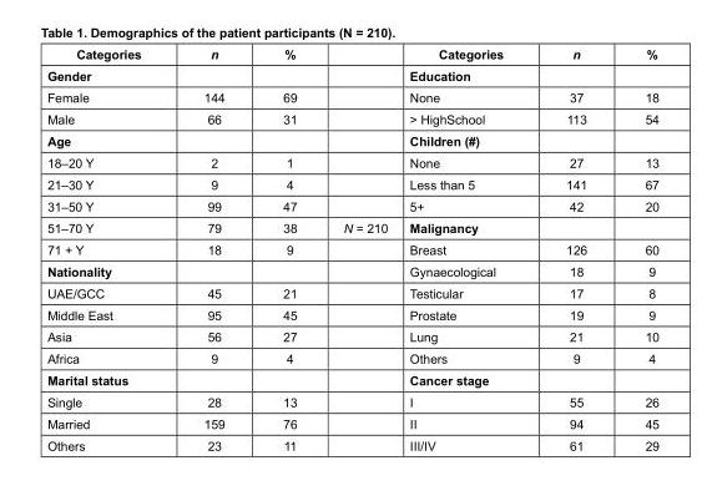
<table><thead><tr><td>Categories</td><td>n</td><td>%</td><td></td><td>Categories</td><td>n</td><td>%</td></tr></thead><tbody><tr><td>Gender</td><td></td><td></td><td></td><td>Education</td><td></td><td></td></tr><tr><td>Female</td><td>144</td><td>69</td><td></td><td>None</td><td>37</td><td>18</td></tr><tr><td>Male</td><td>66</td><td>31</td><td></td><td>&gt; HighSchool</td><td>113</td><td>54</td></tr><tr><td>Age</td><td></td><td></td><td></td><td>Children (#)</td><td></td><td></td></tr><tr><td>18–20 Y</td><td>2</td><td>1</td><td></td><td>None</td><td>27</td><td>13</td></tr><tr><td>21–30 Y</td><td>9</td><td>4</td><td></td><td>Less than 5</td><td>141</td><td>67</td></tr><tr><td>31–50 Y</td><td>99</td><td>47</td><td></td><td>5+</td><td>42</td><td>20</td></tr><tr><td>51–70 Y</td><td>79</td><td>38</td><td>N = 210</td><td>Malignancy</td><td></td><td></td></tr><tr><td>71 + Y</td><td>18</td><td>9</td><td></td><td>Breast</td><td>126</td><td>60</td></tr><tr><td>Nationality</td><td></td><td></td><td></td><td>Gynaecological</td><td>18</td><td>9</td></tr><tr><td>UAE/GCC</td><td>45</td><td>21</td><td></td><td>Testicular</td><td>17</td><td>8</td></tr><tr><td>Middle East</td><td>95</td><td>45</td><td></td><td>Prostate</td><td>19</td><td>9</td></tr><tr><td>Asia</td><td>56</td><td>27</td><td></td><td>Lung</td><td>21</td><td>10</td></tr><tr><td>Africa</td><td>9</td><td>4</td><td></td><td>Others</td><td>9</td><td>4</td></tr><tr><td>Marital status</td><td></td><td></td><td></td><td>Cancer stage</td><td></td><td></td></tr><tr><td>Single</td><td>28</td><td>13</td><td></td><td>I</td><td>55</td><td>26</td></tr><tr><td>Married</td><td>159</td><td>76</td><td></td><td>II</td><td>94</td><td>45</td></tr><tr><td>Others</td><td>23</td><td>11</td><td></td><td>III/IV</td><td>61</td><td>29</td></tr></tbody></table>